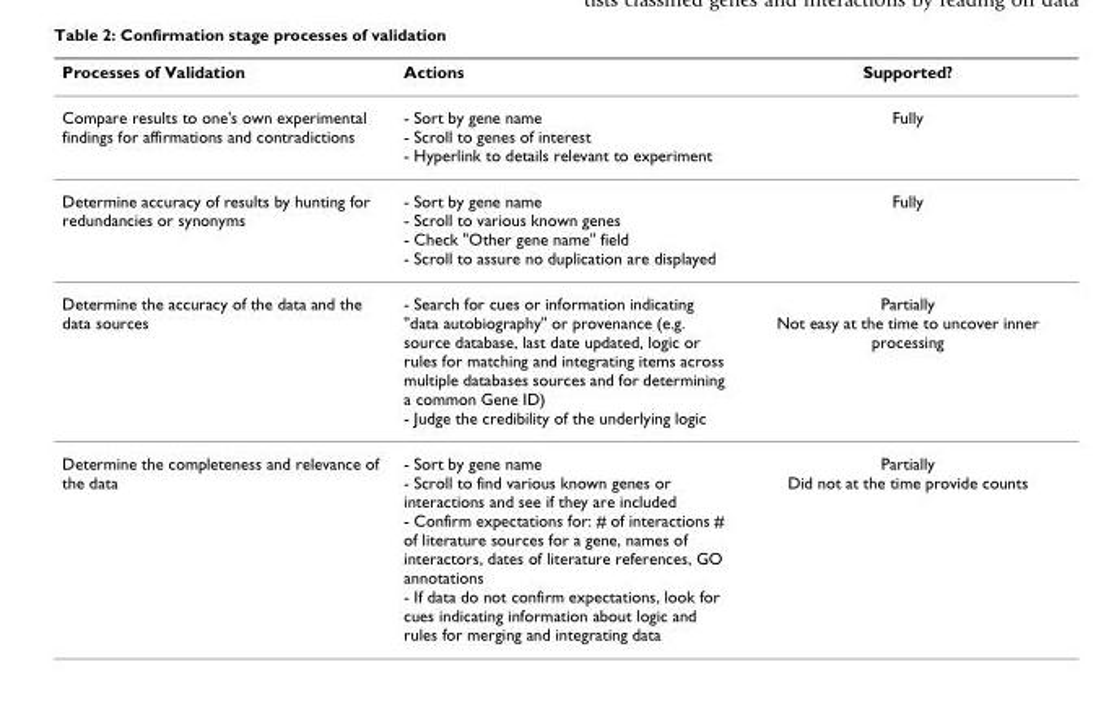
<table><thead><tr><td>Processes of Validation</td><td>Actions</td><td>Supported?</td></tr></thead><tbody><tr><td>Compare results to one&#x27;s own experimental findings for affirmations and contradictions</td><td>- Sort by gene name - Scroll to genes of interest - Hyperlink to details relevant to experiment</td><td>Fully</td></tr><tr><td>Determine accuracy of results by hunting for redundancies or synonyms</td><td>- Sort by gene name - Scroll to various known genes - Check &quot;Other gene name&quot; field - Scroll to assure no duplication are displayed</td><td>Fully</td></tr><tr><td>Determine the accuracy of the data and the data sources</td><td>- Search for cues or information indicating &quot;data autobiography&quot; or provenance (e.g. source database, last date updated, logic or rules for matching and integrating items across multiple databases sources and for determining a common Gene ID) - Judge the credibility of the underlying logic</td><td>Partially Not easy at the time to uncover inner processing</td></tr><tr><td>Determine the completeness and relevance of the data</td><td>- Sort by gene name - Scroll to find various known genes or interactions and see if they are included - Confirm expectations for: # of interactions # of literature sources for a gene, names of interactors, dates of literature references, GO annotations - If data do not confirm expectations, look for cues indicating information about logic and rules for merging and integrating data</td><td>Partially Did not at the time provide counts</td></tr></tbody></table>